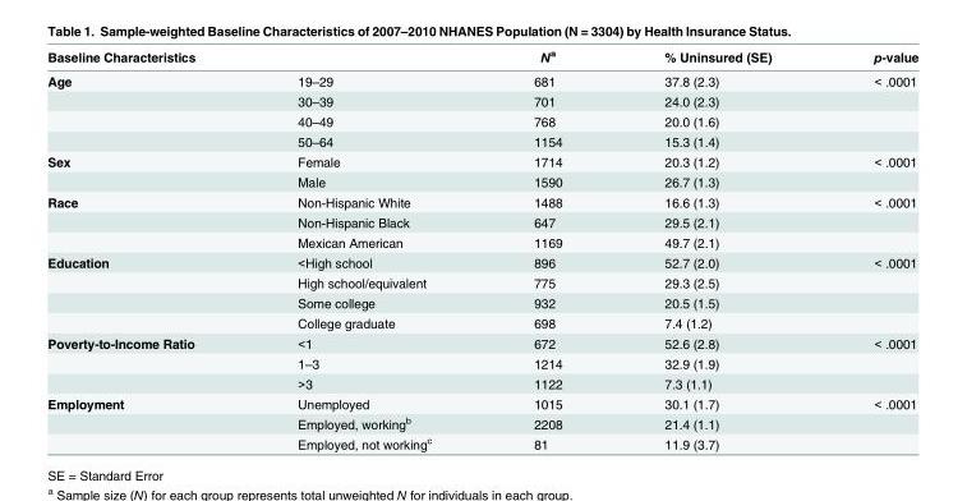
<table><thead><tr><td>Baseline Characteristics</td><td></td><td>N<sup>a</sup></td><td>% Uninsured (SE)</td><td>p-value</td></tr></thead><tbody><tr><td rowspan="4">Age</td><td>19–29</td><td>681</td><td>37.8 (2.3)</td><td>&lt; .0001</td></tr><tr><td>30–39</td><td>701</td><td>24.0 (2.3)</td><td></td></tr><tr><td>40–49</td><td>768</td><td>20.0 (1.6)</td><td></td></tr><tr><td>50–64</td><td>1154</td><td>15.3 (1.4)</td><td></td></tr><tr><td rowspan="2">Sex</td><td>Female</td><td>1714</td><td>20.3 (1.2)</td><td>&lt; .0001</td></tr><tr><td>Male</td><td>1590</td><td>26.7 (1.3)</td><td></td></tr><tr><td rowspan="3">Race</td><td>Non-Hispanic White</td><td>1488</td><td>16.6 (1.3)</td><td>&lt; .0001</td></tr><tr><td>Non-Hispanic Black</td><td>647</td><td>29.5 (2.1)</td><td></td></tr><tr><td>Mexican American</td><td>1169</td><td>49.7 (2.1)</td><td></td></tr><tr><td rowspan="4">Education</td><td>&lt;High school</td><td>896</td><td>52.7 (2.0)</td><td>&lt; .0001</td></tr><tr><td>High school/equivalent</td><td>775</td><td>29.3 (2.5)</td><td></td></tr><tr><td>Some college</td><td>932</td><td>20.5 (1.5)</td><td></td></tr><tr><td>College graduate</td><td>698</td><td>7.4 (1.2)</td><td></td></tr><tr><td rowspan="3">Poverty-to-Income Ratio</td><td>&lt;1</td><td>672</td><td>52.6 (2.8)</td><td>&lt; .0001</td></tr><tr><td>1–3</td><td>1214</td><td>32.9 (1.9)</td><td></td></tr><tr><td>&gt;3</td><td>1122</td><td>7.3 (1.1)</td><td></td></tr><tr><td rowspan="3">Employment</td><td>Unemployed</td><td>1015</td><td>30.1 (1.7)</td><td>&lt; .0001</td></tr><tr><td>Employed, working<sup>b</sup></td><td>2208</td><td>21.4 (1.1)</td><td></td></tr><tr><td>Employed, not working<sup>c</sup></td><td>81</td><td>11.9 (3.7)</td><td></td></tr></tbody></table>